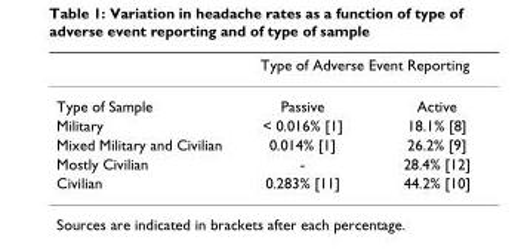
<table><thead><tr><td rowspan="2">Type of Sample</td><td colspan="2">Type of Adverse Event Reporting</td></tr><tr><td>Passive</td><td>Active</td></tr></thead><tbody><tr><td>Military</td><td>&lt; 0.016% [1]</td><td>18.1% [8]</td></tr><tr><td>Mixed Military and Civilian</td><td>0.014% [1]</td><td>26.2% [9]</td></tr><tr><td>Mostly Civilian</td><td>-</td><td>28.4% [12]</td></tr><tr><td>Civilian</td><td>0.283% [11]</td><td>44.2% [10]</td></tr></tbody></table>